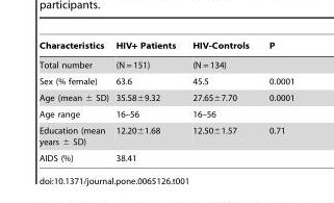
<table><thead><tr><td>Characteristics</td><td>HIV+ Patients</td><td>HIV-Controls</td><td>P</td></tr></thead><tbody><tr><td>Total number</td><td>(N = 151)</td><td>(N = 134)</td><td></td></tr><tr><td>Sex (% female)</td><td>63.6</td><td>45.5</td><td>0.0001</td></tr><tr><td>Age (mean ± SD)</td><td>35.58±9.32</td><td>27.65±7.70</td><td>0.0001</td></tr><tr><td>Age range</td><td>16–56</td><td>16–56</td><td></td></tr><tr><td>Education (mean years ± SD)</td><td>12.20±1.68</td><td>12.50±1.57</td><td>0.71</td></tr><tr><td>AIDS (%)</td><td>38.41</td><td></td><td></td></tr></tbody></table>